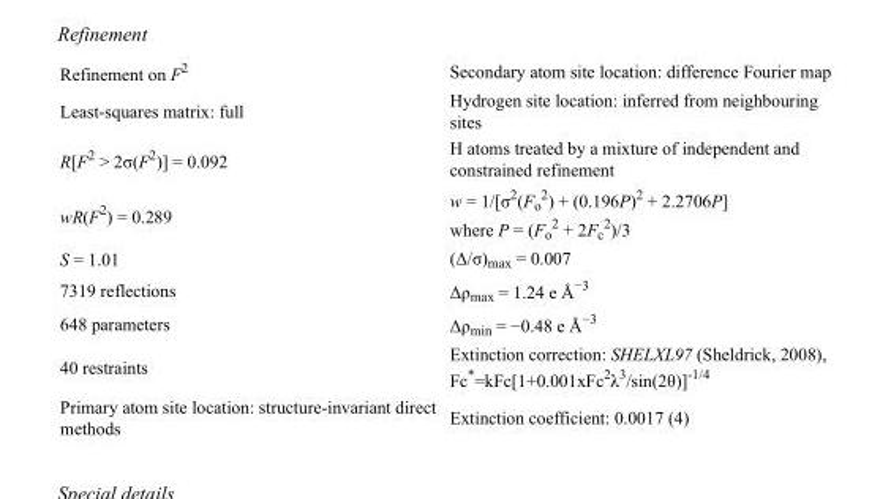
<table><tbody><tr><td>Refinement on F<sup>2</sup></td><td>Secondary atom site location: difference Fourier map</td></tr><tr><td>Least-squares matrix: full</td><td>Hydrogen site location: inferred from neighbouring sites</td></tr><tr><td>R[F<sup>2</sup> &gt; 2σ(F<sup>2</sup>)] = 0.092</td><td>H atoms treated by a mixture of independent and constrained refinement</td></tr><tr><td>wR(F<sup>2</sup>) = 0.289</td><td>w = 1/[σ<sup>2</sup>(F<sub>o</sub> <sup>2</sup>) + (0.196P)<sup>2</sup> + 2.2706P] where P = (F<sub>o</sub> <sup>2</sup> + 2F<sub>c</sub> <sup>2</sup>)/3</td></tr><tr><td>S = 1.01</td><td>(Δ/σ)<sub>max</sub> = 0.007</td></tr><tr><td>7319 reflections</td><td>Δρ<sub>max</sub> = 1.24 e Å<sup>−3</sup></td></tr><tr><td>648 parameters</td><td>Δρ<sub>min</sub> = −0.48 e Å<sup>−3</sup></td></tr><tr><td>40 restraints</td><td>Extinction correction: SHELXL97 (Sheldrick, 2008), Fc*=kFc[1+0.001xFc<sup>2</sup>λ<sup>3</sup>/sin(2θ)]<sup>-1/4</sup></td></tr><tr><td>Primary atom site location: structure-invariant direct methods</td><td>Extinction coefficient: 0.0017 (4)</td></tr></tbody></table>